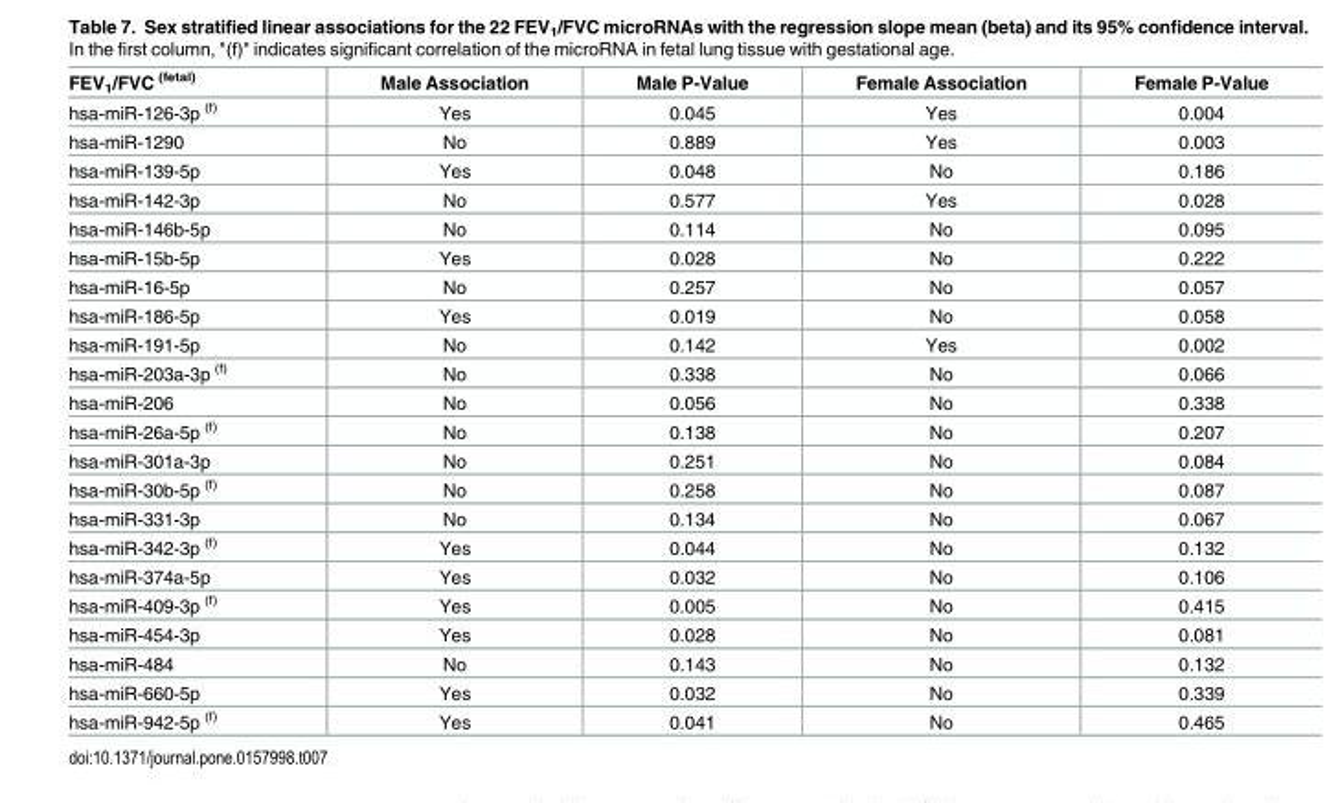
<table><thead><tr><td>FEV<sub>1</sub>/FVC <sup>(fetal)</sup></td><td>Male Association</td><td>Male P-Value</td><td>Female Association</td><td>Female P-Value</td></tr></thead><tbody><tr><td>hsa-miR-126-3p <sup>(f)</sup></td><td>Yes</td><td>0.045</td><td>Yes</td><td>0.004</td></tr><tr><td>hsa-miR-1290</td><td>No</td><td>0.889</td><td>Yes</td><td>0.003</td></tr><tr><td>hsa-miR-139-5p</td><td>Yes</td><td>0.048</td><td>No</td><td>0.186</td></tr><tr><td>hsa-miR-142-3p</td><td>No</td><td>0.577</td><td>Yes</td><td>0.028</td></tr><tr><td>hsa-miR-146b-5p</td><td>No</td><td>0.114</td><td>No</td><td>0.095</td></tr><tr><td>hsa-miR-15b-5p</td><td>Yes</td><td>0.028</td><td>No</td><td>0.222</td></tr><tr><td>hsa-miR-16-5p</td><td>No</td><td>0.257</td><td>No</td><td>0.057</td></tr><tr><td>hsa-miR-186-5p</td><td>Yes</td><td>0.019</td><td>No</td><td>0.058</td></tr><tr><td>hsa-miR-191-5p</td><td>No</td><td>0.142</td><td>Yes</td><td>0.002</td></tr><tr><td>hsa-miR-203a-3p <sup>(f)</sup></td><td>No</td><td>0.338</td><td>No</td><td>0.066</td></tr><tr><td>hsa-miR-206</td><td>No</td><td>0.056</td><td>No</td><td>0.338</td></tr><tr><td>hsa-miR-26a-5p <sup>(f)</sup></td><td>No</td><td>0.138</td><td>No</td><td>0.207</td></tr><tr><td>hsa-miR-301a-3p</td><td>No</td><td>0.251</td><td>No</td><td>0.084</td></tr><tr><td>hsa-miR-30b-5p <sup>(f)</sup></td><td>No</td><td>0.258</td><td>No</td><td>0.087</td></tr><tr><td>hsa-miR-331-3p</td><td>No</td><td>0.134</td><td>No</td><td>0.067</td></tr><tr><td>hsa-miR-342-3p <sup>(f)</sup></td><td>Yes</td><td>0.044</td><td>No</td><td>0.132</td></tr><tr><td>hsa-miR-374a-5p</td><td>Yes</td><td>0.032</td><td>No</td><td>0.106</td></tr><tr><td>hsa-miR-409-3p <sup>(f)</sup></td><td>Yes</td><td>0.005</td><td>No</td><td>0.415</td></tr><tr><td>hsa-miR-454-3p</td><td>Yes</td><td>0.028</td><td>No</td><td>0.081</td></tr><tr><td>hsa-miR-484</td><td>No</td><td>0.143</td><td>No</td><td>0.132</td></tr><tr><td>hsa-miR-660-5p</td><td>Yes</td><td>0.032</td><td>No</td><td>0.339</td></tr><tr><td>hsa-miR-942-5p <sup>(f)</sup></td><td>Yes</td><td>0.041</td><td>No</td><td>0.465</td></tr></tbody></table>